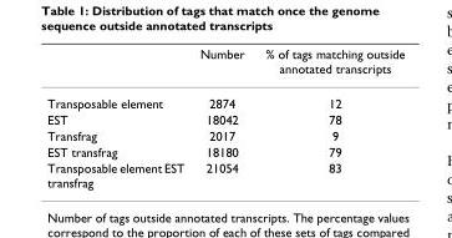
<table><thead><tr><td></td><td>Number</td><td>% of tags matching outside annotated transcripts</td></tr></thead><tbody><tr><td>Transposable element</td><td>2874</td><td>12</td></tr><tr><td>EST</td><td>18042</td><td>78</td></tr><tr><td>Transfrag</td><td>2017</td><td>9</td></tr><tr><td>EST transfrag</td><td>18180</td><td>79</td></tr><tr><td>Transposable element EST transfrag</td><td>21054</td><td>83</td></tr></tbody></table>